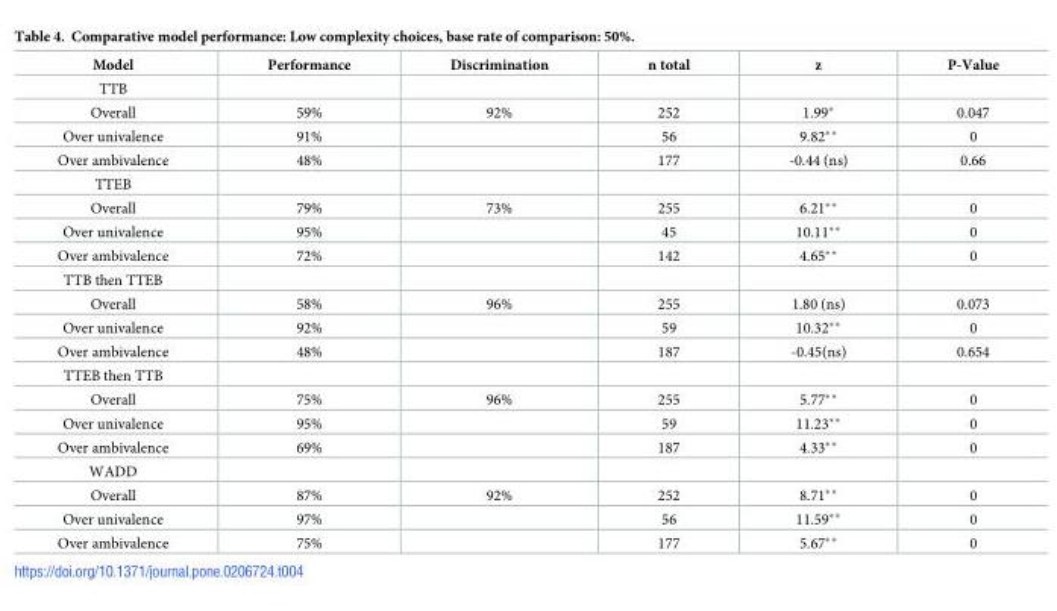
<table><thead><tr><td>Model</td><td>Performance</td><td>Discrimination</td><td>n total</td><td>z</td><td>P-Value</td></tr></thead><tbody><tr><td colspan="6">TTB</td></tr><tr><td>Overall</td><td>59%</td><td>92%</td><td>252</td><td>1.99*</td><td>0.047</td></tr><tr><td>Over univalence</td><td>91%</td><td></td><td>56</td><td>9.82**</td><td>0</td></tr><tr><td>Over ambivalence</td><td>48%</td><td></td><td>177</td><td>-0.44 (ns)</td><td>0.66</td></tr><tr><td colspan="6">TTEB</td></tr><tr><td>Overall</td><td>79%</td><td>73%</td><td>255</td><td>6.21**</td><td>0</td></tr><tr><td>Over univalence</td><td>95%</td><td></td><td>45</td><td>10.11**</td><td>0</td></tr><tr><td>Over ambivalence</td><td>72%</td><td></td><td>142</td><td>4.65**</td><td>0</td></tr><tr><td colspan="6">TTB then TTEB</td></tr><tr><td>Overall</td><td>58%</td><td>96%</td><td>255</td><td>1.80 (ns)</td><td>0.073</td></tr><tr><td>Over univalence</td><td>92%</td><td></td><td>59</td><td>10.32**</td><td>0</td></tr><tr><td>Over ambivalence</td><td>48%</td><td></td><td>187</td><td>-0.45(ns)</td><td>0.654</td></tr><tr><td colspan="6">TTEB then TTB</td></tr><tr><td>Overall</td><td>75%</td><td>96%</td><td>255</td><td>5.77**</td><td>0</td></tr><tr><td>Over univalence</td><td>95%</td><td></td><td>59</td><td>11.23**</td><td>0</td></tr><tr><td>Over ambivalence</td><td>69%</td><td></td><td>187</td><td>4.33**</td><td>0</td></tr><tr><td colspan="6">WADD</td></tr><tr><td>Overall</td><td>87%</td><td>92%</td><td>252</td><td>8.71**</td><td>0</td></tr><tr><td>Over univalence</td><td>97%</td><td></td><td>56</td><td>11.59**</td><td>0</td></tr><tr><td>Over ambivalence</td><td>75%</td><td></td><td>177</td><td>5.67**</td><td>0</td></tr></tbody></table>